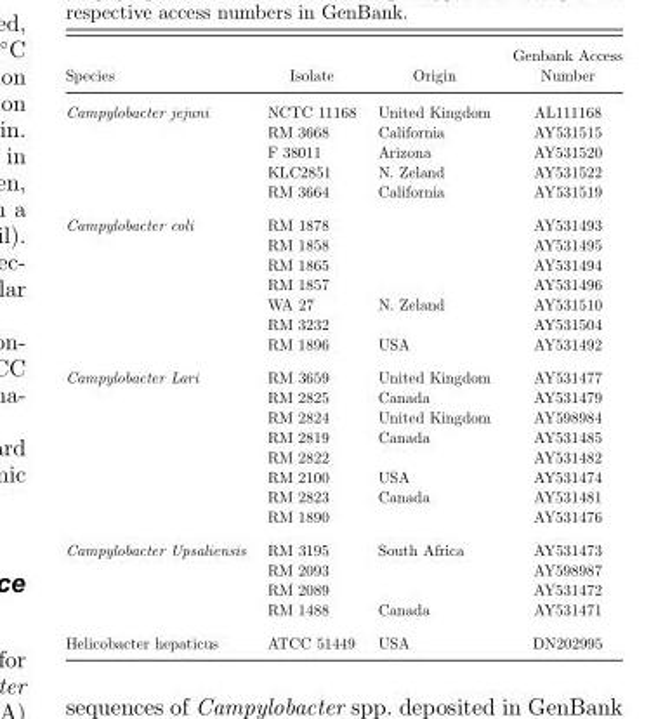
<table><thead><tr><td>Species</td><td>Isolate</td><td>Origin</td><td>Number</td></tr></thead><tbody><tr><td rowspan="5">Campylobacter jejuni</td><td>NCTC 11168</td><td>United Kingdom</td><td>AL111168</td></tr><tr><td>RM 3668</td><td>California</td><td>AY531515</td></tr><tr><td>F 38011</td><td>Arizona</td><td>AY531520</td></tr><tr><td>KLC2851</td><td>N. Zeland</td><td>AY531522</td></tr><tr><td>RM 3664</td><td>California</td><td>AY531519</td></tr><tr><td rowspan="7">Campylobacter coli</td><td>RM 1878</td><td></td><td>AY531493</td></tr><tr><td>RM 1858</td><td></td><td>AY531495</td></tr><tr><td>RM 1865</td><td></td><td>AY531494</td></tr><tr><td>RM 1857</td><td></td><td>AY531496</td></tr><tr><td>WA 27</td><td>N. Zeland</td><td>AY531510</td></tr><tr><td>RM 3232</td><td></td><td>AY531504</td></tr><tr><td>RM 1896</td><td>USA</td><td>AY531492</td></tr><tr><td rowspan="8">Campylobacter Lari</td><td>RM 3659</td><td>United Kingdom</td><td>AY531477</td></tr><tr><td>RM 2825</td><td>Canada</td><td>AY531479</td></tr><tr><td>RM 2824</td><td>United Kingdom</td><td>AY598984</td></tr><tr><td>RM 2819</td><td>Canada</td><td>AY531485</td></tr><tr><td>RM 2822</td><td></td><td>AY531482</td></tr><tr><td>RM 2100</td><td>USA</td><td>AY531474</td></tr><tr><td>RM 2823</td><td>Canada</td><td>AY531481</td></tr><tr><td>RM 1890</td><td></td><td>AY531476</td></tr><tr><td rowspan="4">Campylobacter Upsaliensis</td><td>RM 3195</td><td>South Africa</td><td>AY531473</td></tr><tr><td>RM 2093</td><td></td><td>AY598987</td></tr><tr><td>RM 2089</td><td></td><td>AY531472</td></tr><tr><td>RM 1488</td><td>Canada</td><td>AY531471</td></tr><tr><td>Helicobacter hepaticus</td><td>ATCC 51449</td><td>USA</td><td>DN202995</td></tr></tbody></table>